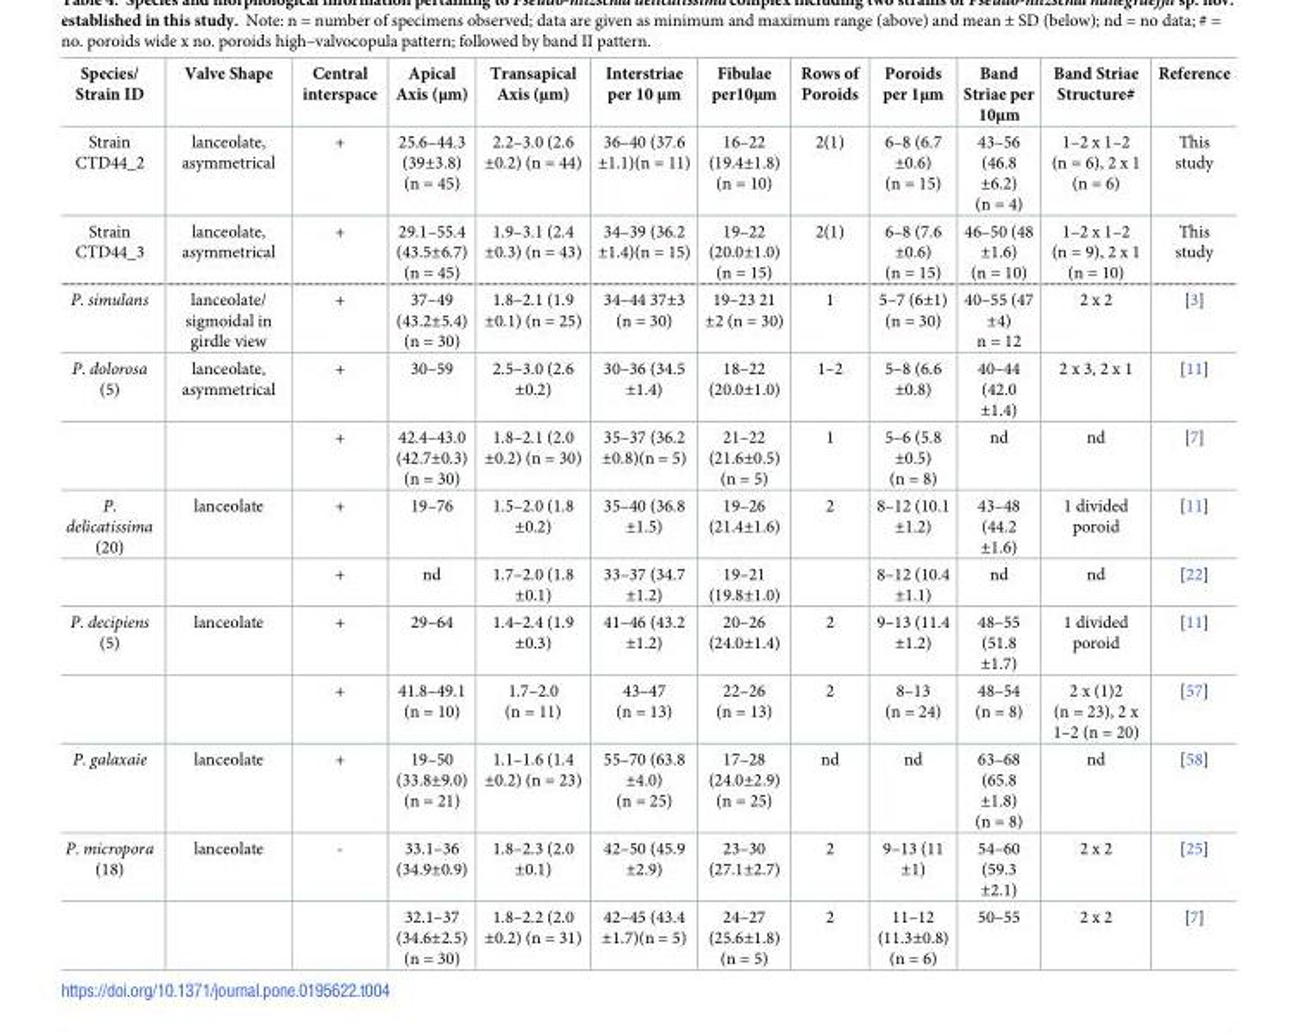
<table><thead><tr><td>Species/ Strain ID</td><td>Valve Shape</td><td>Central interspace</td><td>Apical Axis (μm)</td><td>Transapical Axis (μm)</td><td>Interstriae per 10 μm</td><td>Fibulae per10μm</td><td>Rows of Poroids</td><td>Poroids per 1μm</td><td>Band Striae per 10μm</td><td>Band Striae Structure#</td><td>Reference</td></tr></thead><tbody><tr><td>Strain CTD44_2</td><td>lanceolate, asymmetrical</td><td>+</td><td>25.6–44.3 (39±3.8) (n = 45)</td><td>2.2–3.0 (2.6 ±0.2) (n = 44)</td><td>36–40 (37.6 ±1.1)(n = 11)</td><td>16–22 (19.4±1.8) (n = 10)</td><td>2(1)</td><td>6–8 (6.7 ±0.6) (n = 15)</td><td>43–56 (46.8 ±6.2) (n = 4)</td><td>1–2 x 1–2 (n = 6), 2 x 1 (n = 6)</td><td>This study</td></tr><tr><td>Strain CTD44_3</td><td>lanceolate, asymmetrical</td><td>+</td><td>29.1–55.4 (43.5±6.7) (n = 45)</td><td>1.9–3.1 (2.4 ±0.3) (n = 43)</td><td>34–39 (36.2 ±1.4)(n = 15)</td><td>19–22 (20.0±1.0) (n = 15)</td><td>2(1)</td><td>6–8 (7.6 ±0.6) (n = 15)</td><td>46–50 (48 ±1.6) (n = 10)</td><td>1–2 x 1–2 (n = 9), 2 x 1 (n = 10)</td><td>This study</td></tr><tr><td>P. simulans</td><td>lanceolate/ sigmoidal in girdle view</td><td>+</td><td>37–49 (43.2±5.4) (n = 30)</td><td>1.8–2.1 (1.9 ±0.1) (n = 25)</td><td>34–44 37±3 (n = 30)</td><td>19–23 21 ±2 (n = 30)</td><td>1</td><td>5–7 (6±1) (n = 30)</td><td>40–55 (47 ±4) n = 12</td><td>2 x 2</td><td>[3]</td></tr><tr><td rowspan="2">P. dolorosa (5)</td><td>lanceolate, asymmetrical</td><td>+</td><td>30–59</td><td>2.5–3.0 (2.6 ±0.2)</td><td>30–36 (34.5 ±1.4)</td><td>18–22 (20.0±1.0)</td><td>1–2</td><td>5–8 (6.6 ±0.8)</td><td>40–44 (42.0 ±1.4)</td><td>2 x 3, 2 x 1</td><td>[11]</td></tr><tr><td></td><td>+</td><td>42.4–43.0 (42.7±0.3) (n = 30)</td><td>1.8–2.1 (2.0 ±0.2) (n = 30)</td><td>35–37 (36.2 ±0.8)(n = 5)</td><td>21–22 (21.6±0.5) (n = 5)</td><td>1</td><td>5–6 (5.8 ±0.5) (n = 8)</td><td>nd</td><td>nd</td><td>[7]</td></tr><tr><td rowspan="2">P. delicatissima (20)</td><td>lanceolate</td><td>+</td><td>19–76</td><td>1.5–2.0 (1.8 ±0.2)</td><td>35–40 (36.8 ±1.5)</td><td>19–26 (21.4±1.6)</td><td>2</td><td>8–12 (10.1 ±1.2)</td><td>43–48 (44.2 ±1.6)</td><td>1 divided poroid</td><td>[11]</td></tr><tr><td></td><td>+</td><td>nd</td><td>1.7–2.0 (1.8 ±0.1)</td><td>33–37 (34.7 ±1.2)</td><td>19–21 (19.8±1.0)</td><td></td><td>8–12 (10.4 ±1.1)</td><td>nd</td><td>nd</td><td>[22]</td></tr><tr><td rowspan="2">P. decipiens (5)</td><td>lanceolate</td><td>+</td><td>29–64</td><td>1.4–2.4 (1.9 ±0.3)</td><td>41–46 (43.2 ±1.2)</td><td>20–26 (24.0±1.4)</td><td>2</td><td>9–13 (11.4 ±1.2)</td><td>48–55 (51.8 ±1.7)</td><td>1 divided poroid</td><td>[11]</td></tr><tr><td></td><td>+</td><td>41.8–49.1 (n = 10)</td><td>1.7–2.0 (n = 11)</td><td>43–47 (n = 13)</td><td>22–26 (n = 13)</td><td>2</td><td>8–13 (n = 24)</td><td>48–54 (n = 8)</td><td>2 x (1)2 (n = 23), 2 x 1–2 (n = 20)</td><td>[57]</td></tr><tr><td>P. galaxaie</td><td>lanceolate</td><td>+</td><td>19–50 (33.8±9.0) (n = 21)</td><td>1.1–1.6 (1.4 ±0.2) (n = 23)</td><td>55–70 (63.8 ±4.0) (n = 25)</td><td>17–28 (24.0±2.9) (n = 25)</td><td>nd</td><td>nd</td><td>63–68 (65.8 ±1.8) (n = 8)</td><td>nd</td><td>[58]</td></tr><tr><td rowspan="2">P. micropora (18)</td><td>lanceolate</td><td>-</td><td>33.1–36 (34.9±0.9)</td><td>1.8–2.3 (2.0 ±0.1)</td><td>42–50 (45.9 ±2.9)</td><td>23–30 (27.1±2.7)</td><td>2</td><td>9–13 (11 ±1)</td><td>54–60 (59.3 ±2.1)</td><td>2 x 2</td><td>[25]</td></tr><tr><td></td><td></td><td>32.1–37 (34.6±2.5) (n = 30)</td><td>1.8–2.2 (2.0 ±0.2) (n = 31)</td><td>42–45 (43.4 ±1.7)(n = 5)</td><td>24–27 (25.6±1.8) (n = 5)</td><td>2</td><td>11–12 (11.3±0.8) (n = 6)</td><td>50–55</td><td>2 x 2</td><td>[7]</td></tr></tbody></table>